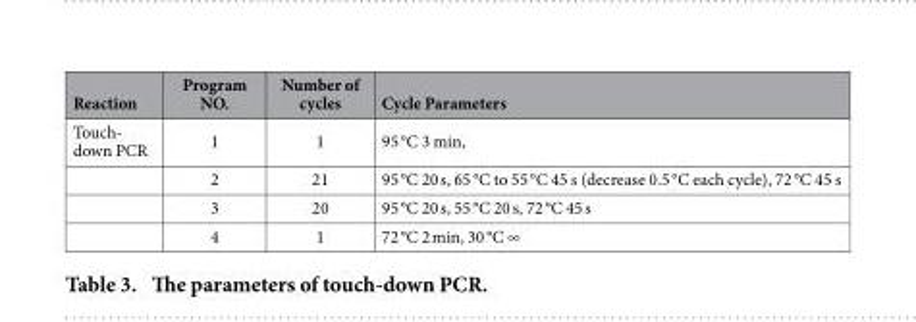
<table><thead><tr><td>Reaction</td><td>Program NO.</td><td>Number of cycles</td><td>Cycle Parameters</td></tr></thead><tbody><tr><td rowspan="4">Touch- down PCR</td><td>1</td><td>1</td><td>95 °C 3 min,</td></tr><tr><td>2</td><td>21</td><td>95 °C 20 s, 65 °C to 55 °C 45 s (decrease 0.5 °C each cycle), 72 °C 45 s</td></tr><tr><td>3</td><td>20</td><td>95 °C 20 s, 55 °C 20 s, 72 °C 45 s</td></tr><tr><td>4</td><td>1</td><td>72 °C 2 min, 30 °C ∞</td></tr></tbody></table>